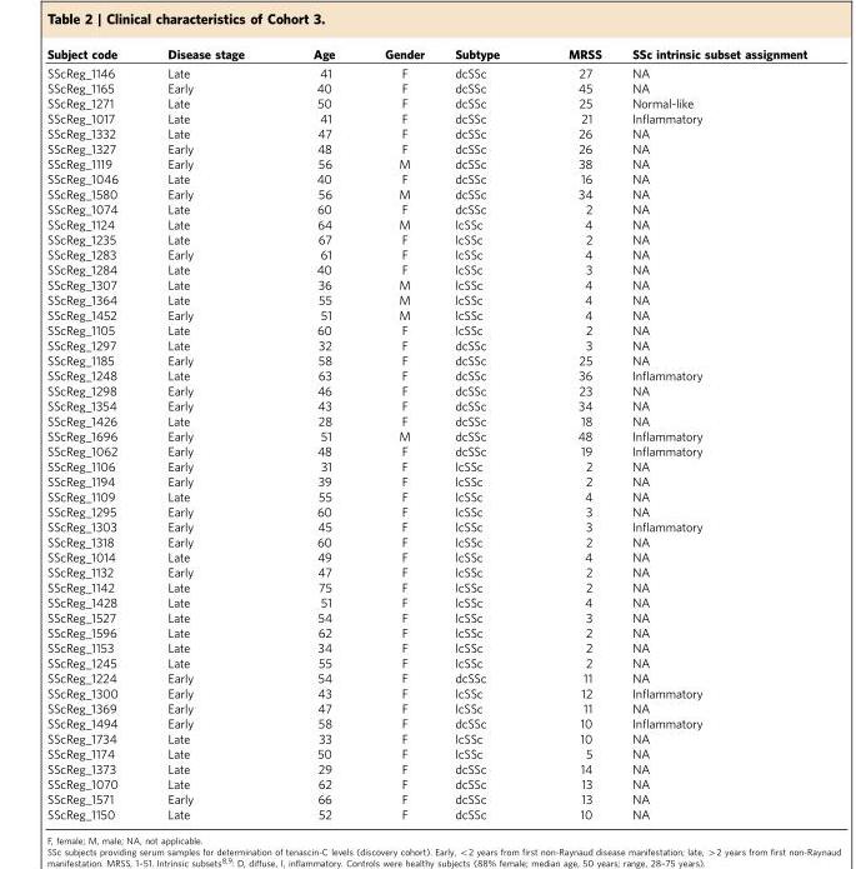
<table><thead><tr><td>Subject code</td><td>Disease stage</td><td>Age</td><td>Gender</td><td>Subtype</td><td>MRSS</td><td>SSc intrinsic subset assignment</td></tr></thead><tbody><tr><td>SScReg_1146</td><td>Late</td><td>41</td><td>F</td><td>dcSSc</td><td>27</td><td>NA</td></tr><tr><td>SScReg_1165</td><td>Early</td><td>40</td><td>F</td><td>dcSSc</td><td>45</td><td>NA</td></tr><tr><td>SScReg_1271</td><td>Late</td><td>50</td><td>F</td><td>dcSSc</td><td>25</td><td>Normal-like</td></tr><tr><td>SScReg_1017</td><td>Late</td><td>41</td><td>F</td><td>dcSSc</td><td>21</td><td>Inflammatory</td></tr><tr><td>SScReg_1332</td><td>Late</td><td>47</td><td>F</td><td>dcSSc</td><td>26</td><td>NA</td></tr><tr><td>SScReg_1327</td><td>Early</td><td>48</td><td>F</td><td>dcSSc</td><td>26</td><td>NA</td></tr><tr><td>SScReg_1119</td><td>Early</td><td>56</td><td>M</td><td>dcSSc</td><td>38</td><td>NA</td></tr><tr><td>SScReg_1046</td><td>Late</td><td>40</td><td>F</td><td>dcSSc</td><td>16</td><td>NA</td></tr><tr><td>SScReg_1580</td><td>Early</td><td>56</td><td>M</td><td>dcSSc</td><td>34</td><td>NA</td></tr><tr><td>SScReg_1074</td><td>Late</td><td>60</td><td>F</td><td>dcSSc</td><td>2</td><td>NA</td></tr><tr><td>SScReg_1124</td><td>Late</td><td>64</td><td>M</td><td>lcSSc</td><td>4</td><td>NA</td></tr><tr><td>SScReg_1235</td><td>Late</td><td>67</td><td>F</td><td>lcSSc</td><td>2</td><td>NA</td></tr><tr><td>SScReg_1283</td><td>Early</td><td>61</td><td>F</td><td>lcSSc</td><td>4</td><td>NA</td></tr><tr><td>SScReg_1284</td><td>Late</td><td>40</td><td>F</td><td>lcSSc</td><td>3</td><td>NA</td></tr><tr><td>SScReg_1307</td><td>Late</td><td>36</td><td>M</td><td>lcSSc</td><td>4</td><td>NA</td></tr><tr><td>SScReg_1364</td><td>Late</td><td>55</td><td>M</td><td>lcSSc</td><td>4</td><td>NA</td></tr><tr><td>SScReg_1452</td><td>Early</td><td>51</td><td>M</td><td>lcSSc</td><td>4</td><td>NA</td></tr><tr><td>SScReg_1105</td><td>Late</td><td>60</td><td>F</td><td>lcSSc</td><td>2</td><td>NA</td></tr><tr><td>SScReg_1297</td><td>Late</td><td>32</td><td>F</td><td>dcSSc</td><td>3</td><td>NA</td></tr><tr><td>SScReg_1185</td><td>Early</td><td>58</td><td>F</td><td>dcSSc</td><td>25</td><td>NA</td></tr><tr><td>SScReg_1248</td><td>Late</td><td>63</td><td>F</td><td>dcSSc</td><td>36</td><td>Inflammatory</td></tr><tr><td>SScReg_1298</td><td>Early</td><td>46</td><td>F</td><td>dcSSc</td><td>23</td><td>NA</td></tr><tr><td>SScReg_1354</td><td>Early</td><td>43</td><td>F</td><td>dcSSc</td><td>34</td><td>NA</td></tr><tr><td>SScReg_1426</td><td>Late</td><td>28</td><td>F</td><td>dcSSc</td><td>18</td><td>NA</td></tr><tr><td>SScReg_1696</td><td>Early</td><td>51</td><td>M</td><td>dcSSc</td><td>48</td><td>Inflammatory</td></tr><tr><td>SScReg_1062</td><td>Early</td><td>48</td><td>F</td><td>dcSSc</td><td>19</td><td>Inflammatory</td></tr><tr><td>SScReg_1106</td><td>Early</td><td>31</td><td>F</td><td>lcSSc</td><td>2</td><td>NA</td></tr><tr><td>SScReg_1194</td><td>Early</td><td>39</td><td>F</td><td>lcSSc</td><td>2</td><td>NA</td></tr><tr><td>SScReg_1109</td><td>Late</td><td>55</td><td>F</td><td>lcSSc</td><td>4</td><td>NA</td></tr><tr><td>SScReg_1295</td><td>Early</td><td>60</td><td>F</td><td>lcSSc</td><td>3</td><td>NA</td></tr><tr><td>SScReg_1303</td><td>Early</td><td>45</td><td>F</td><td>lcSSc</td><td>3</td><td>Inflammatory</td></tr><tr><td>SScReg_1318</td><td>Early</td><td>60</td><td>F</td><td>lcSSc</td><td>2</td><td>NA</td></tr><tr><td>SScReg_1014</td><td>Late</td><td>49</td><td>F</td><td>lcSSc</td><td>4</td><td>NA</td></tr><tr><td>SScReg_1132</td><td>Early</td><td>47</td><td>F</td><td>lcSSc</td><td>2</td><td>NA</td></tr><tr><td>SScReg_1142</td><td>Late</td><td>75</td><td>F</td><td>lcSSc</td><td>2</td><td>NA</td></tr><tr><td>SScReg_1428</td><td>Late</td><td>51</td><td>F</td><td>lcSSc</td><td>4</td><td>NA</td></tr><tr><td>SScReg_1527</td><td>Late</td><td>54</td><td>F</td><td>lcSSc</td><td>3</td><td>NA</td></tr><tr><td>SScReg_1596</td><td>Late</td><td>62</td><td>F</td><td>lcSSc</td><td>2</td><td>NA</td></tr><tr><td>SScReg_1153</td><td>Late</td><td>34</td><td>F</td><td>lcSSc</td><td>2</td><td>NA</td></tr><tr><td>SScReg_1245</td><td>Late</td><td>55</td><td>F</td><td>lcSSc</td><td>2</td><td>NA</td></tr><tr><td>SScReg_1224</td><td>Early</td><td>54</td><td>F</td><td>dcSSc</td><td>11</td><td>NA</td></tr><tr><td>SScReg_1300</td><td>Early</td><td>43</td><td>F</td><td>lcSSc</td><td>12</td><td>Inflammatory</td></tr><tr><td>SScReg_1369</td><td>Early</td><td>47</td><td>F</td><td>lcSSc</td><td>11</td><td>NA</td></tr><tr><td>SScReg_1494</td><td>Early</td><td>58</td><td>F</td><td>dcSSc</td><td>10</td><td>Inflammatory</td></tr><tr><td>SScReg_1734</td><td>Late</td><td>33</td><td>F</td><td>lcSSc</td><td>10</td><td>NA</td></tr><tr><td>SScReg_1174</td><td>Late</td><td>50</td><td>F</td><td>lcSSc</td><td>5</td><td>NA</td></tr><tr><td>SScReg_1373</td><td>Late</td><td>29</td><td>F</td><td>dcSSc</td><td>14</td><td>NA</td></tr><tr><td>SScReg_1070</td><td>Late</td><td>62</td><td>F</td><td>dcSSc</td><td>13</td><td>NA</td></tr><tr><td>SScReg_1571</td><td>Early</td><td>66</td><td>F</td><td>dcSSc</td><td>13</td><td>NA</td></tr><tr><td>SScReg_1150</td><td>Late</td><td>52</td><td>F</td><td>dcSSc</td><td>10</td><td>NA</td></tr></tbody></table>